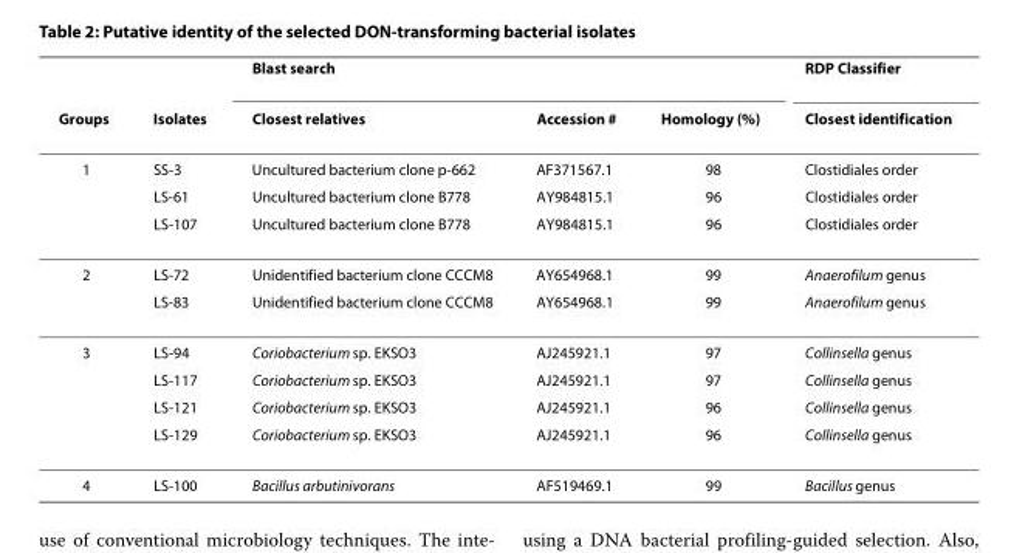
<table><thead><tr><td rowspan="2">Groups</td><td rowspan="2">Isolates</td><td rowspan="2">Blast search Closest relatives</td><td rowspan="2">Accession #</td><td rowspan="2">Homology (%)</td><td rowspan="2">RDP Classifier Closest identification</td></tr><tr></tr></thead><tbody><tr><td rowspan="3">1</td><td>SS-3</td><td>Uncultured bacterium clone p-662</td><td>AF371567.1</td><td>98</td><td>Clostidiales order</td></tr><tr><td>LS-61</td><td>Uncultured bacterium clone B778</td><td>AY984815.1</td><td>96</td><td>Clostidiales order</td></tr><tr><td>LS-107</td><td>Uncultured bacterium clone B778</td><td>AY984815.1</td><td>96</td><td>Clostidiales order</td></tr><tr><td rowspan="2">2</td><td>LS-72</td><td>Unidentified bacterium clone CCCM8</td><td>AY654968.1</td><td>99</td><td>Anaerofilum genus</td></tr><tr><td>LS-83</td><td>Unidentified bacterium clone CCCM8</td><td>AY654968.1</td><td>99</td><td>Anaerofilum genus</td></tr><tr><td rowspan="4">3</td><td>LS-94</td><td>Coriobacterium sp. EKSO3</td><td>AJ245921.1</td><td>97</td><td>Collinsella genus</td></tr><tr><td>LS-117</td><td>Coriobacterium sp. EKSO3</td><td>AJ245921.1</td><td>97</td><td>Collinsella genus</td></tr><tr><td>LS-121</td><td>Coriobacterium sp. EKSO3</td><td>AJ245921.1</td><td>96</td><td>Collinsella genus</td></tr><tr><td>LS-129</td><td>Coriobacterium sp. EKSO3</td><td>AJ245921.1</td><td>96</td><td>Collinsella genus</td></tr><tr><td>4</td><td>LS-100</td><td>Bacillus arbutinivorans</td><td>AF519469.1</td><td>99</td><td>Bacillus genus</td></tr></tbody></table>